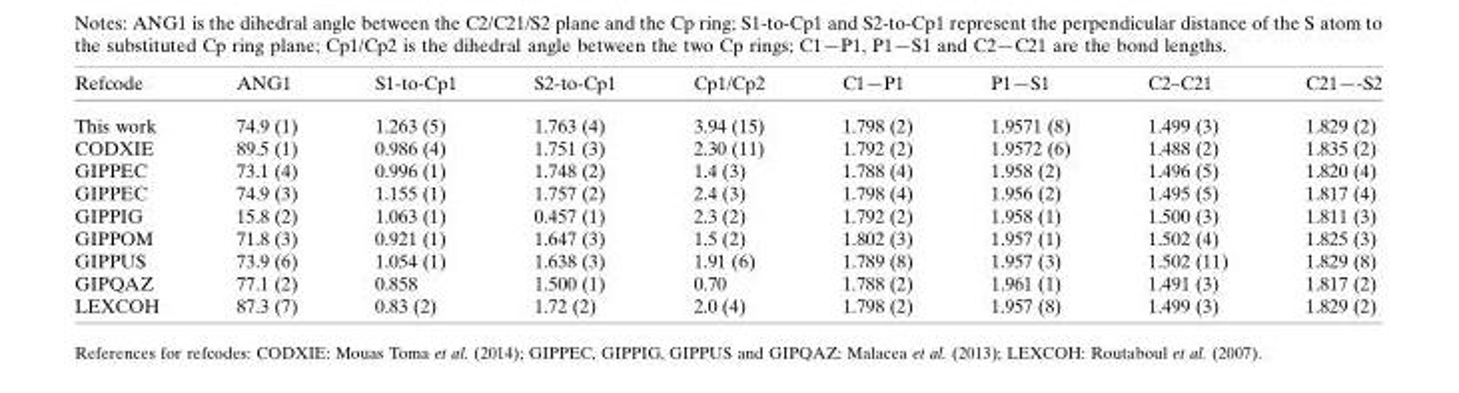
<table><thead><tr><td>Refcode</td><td>ANG1</td><td>S1-to-Cp1</td><td>S2-to-Cp1</td><td>Cp1/Cp2</td><td>C1—P1</td><td>P1—S1</td><td>C2–C21</td><td>C21—-S2</td></tr></thead><tbody><tr><td>This work</td><td>74.9 (1)</td><td>1.263 (5)</td><td>1.763 (4)</td><td>3.94 (15)</td><td>1.798 (2)</td><td>1.9571 (8)</td><td>1.499 (3)</td><td>1.829 (2)</td></tr><tr><td>CODXIE</td><td>89.5 (1)</td><td>0.986 (4)</td><td>1.751 (3)</td><td>2.30 (11)</td><td>1.792 (2)</td><td>1.9572 (6)</td><td>1.488 (2)</td><td>1.835 (2)</td></tr><tr><td>GIPPEC</td><td>73.1 (4)</td><td>0.996 (1)</td><td>1.748 (2)</td><td>1.4 (3)</td><td>1.788 (4)</td><td>1.958 (2)</td><td>1.496 (5)</td><td>1.820 (4)</td></tr><tr><td>GIPPEC</td><td>74.9 (3)</td><td>1.155 (1)</td><td>1.757 (2)</td><td>2.4 (3)</td><td>1.798 (4)</td><td>1.956 (2)</td><td>1.495 (5)</td><td>1.817 (4)</td></tr><tr><td>GIPPIG</td><td>15.8 (2)</td><td>1.063 (1)</td><td>0.457 (1)</td><td>2.3 (2)</td><td>1.792 (2)</td><td>1.958 (1)</td><td>1.500 (3)</td><td>1.811 (3)</td></tr><tr><td>GIPPOM</td><td>71.8 (3)</td><td>0.921 (1)</td><td>1.647 (3)</td><td>1.5 (2)</td><td>1.802 (3)</td><td>1.957 (1)</td><td>1.502 (4)</td><td>1.825 (3)</td></tr><tr><td>GIPPUS</td><td>73.9 (6)</td><td>1.054 (1)</td><td>1.638 (3)</td><td>1.91 (6)</td><td>1.789 (8)</td><td>1.957 (3)</td><td>1.502 (11)</td><td>1.829 (8)</td></tr><tr><td>GIPQAZ</td><td>77.1 (2)</td><td>0.858</td><td>1.500 (1)</td><td>0.70</td><td>1.788 (2)</td><td>1.961 (1)</td><td>1.491 (3)</td><td>1.817 (2)</td></tr><tr><td>LEXCOH</td><td>87.3 (7)</td><td>0.83 (2)</td><td>1.72 (2)</td><td>2.0 (4)</td><td>1.798 (2)</td><td>1.957 (8)</td><td>1.499 (3)</td><td>1.829 (2)</td></tr></tbody></table>